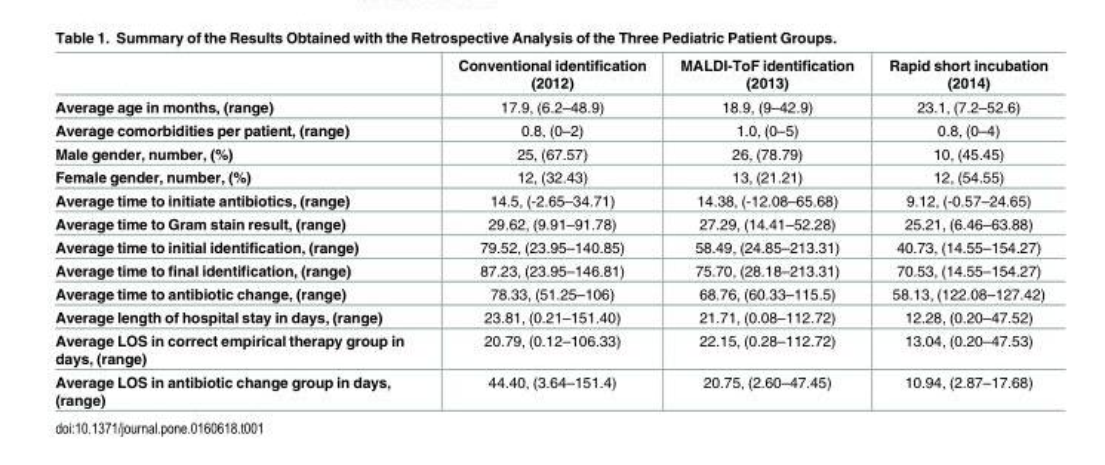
<table><thead><tr><td></td><td>Conventional identification (2012)</td><td>MALDI-ToF identification (2013)</td><td>Rapid short incubation (2014)</td></tr></thead><tbody><tr><td>Average age in months, (range)</td><td>17.9, (6.2–48.9)</td><td>18.9, (9–42.9)</td><td>23.1, (7.2–52.6)</td></tr><tr><td>Average comorbidities per patient, (range)</td><td>0.8, (0–2)</td><td>1.0, (0–5)</td><td>0.8, (0–4)</td></tr><tr><td>Male gender, number, (%)</td><td>25, (67.57)</td><td>26, (78.79)</td><td>10, (45.45)</td></tr><tr><td>Female gender, number, (%)</td><td>12, (32.43)</td><td>13, (21.21)</td><td>12, (54.55)</td></tr><tr><td>Average time to initiate antibiotics, (range)</td><td>14.5, (-2.65–34.71)</td><td>14.38, (-12.08–65.68)</td><td>9.12, (-0.57–24.65)</td></tr><tr><td>Average time to Gram stain result, (range)</td><td>29.62, (9.91–91.78)</td><td>27.29, (14.41–52.28)</td><td>25.21, (6.46–63.88)</td></tr><tr><td>Average time to initial identification, (range)</td><td>79.52, (23.95–140.85)</td><td>58.49, (24.85–213.31)</td><td>40.73, (14.55–154.27)</td></tr><tr><td>Average time to final identification, (range)</td><td>87.23, (23.95–146.81)</td><td>75.70, (28.18–213.31)</td><td>70.53, (14.55–154.27)</td></tr><tr><td>Average time to antibiotic change, (range)</td><td>78.33, (51.25–106)</td><td>68.76, (60.33–115.5)</td><td>58.13, (122.08–127.42)</td></tr><tr><td>Average length of hospital stay in days, (range)</td><td>23.81, (0.21–151.40)</td><td>21.71, (0.08–112.72)</td><td>12.28, (0.20–47.52)</td></tr><tr><td>Average LOS in correct empirical therapy group in days, (range)</td><td>20.79, (0.12–106.33)</td><td>22.15, (0.28–112.72)</td><td>13.04, (0.20–47.53)</td></tr><tr><td>Average LOS in antibiotic change group in days, (range)</td><td>44.40, (3.64–151.4)</td><td>20.75, (2.60–47.45)</td><td>10.94, (2.87–17.68)</td></tr></tbody></table>